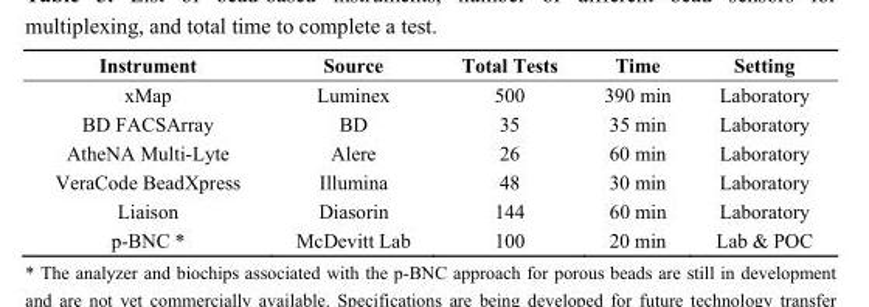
<table><thead><tr><td>Instrument</td><td>Source</td><td>Total Tests</td><td>Time</td><td>Setting</td></tr></thead><tbody><tr><td>xMap</td><td>Luminex</td><td>500</td><td>390 min</td><td>Laboratory</td></tr><tr><td>BD FACSArray</td><td>BD</td><td>35</td><td>35 min</td><td>Laboratory</td></tr><tr><td>AtheNA Multi-Lyte</td><td>Alere</td><td>26</td><td>60 min</td><td>Laboratory</td></tr><tr><td>VeraCode BeadXpress</td><td>Illumina</td><td>48</td><td>30 min</td><td>Laboratory</td></tr><tr><td>Liaison</td><td>Diasorin</td><td>144</td><td>60 min</td><td>Laboratory</td></tr><tr><td>p-BNC *</td><td>McDevitt Lab</td><td>100</td><td>20 min</td><td>Lab &amp; POC</td></tr></tbody></table>